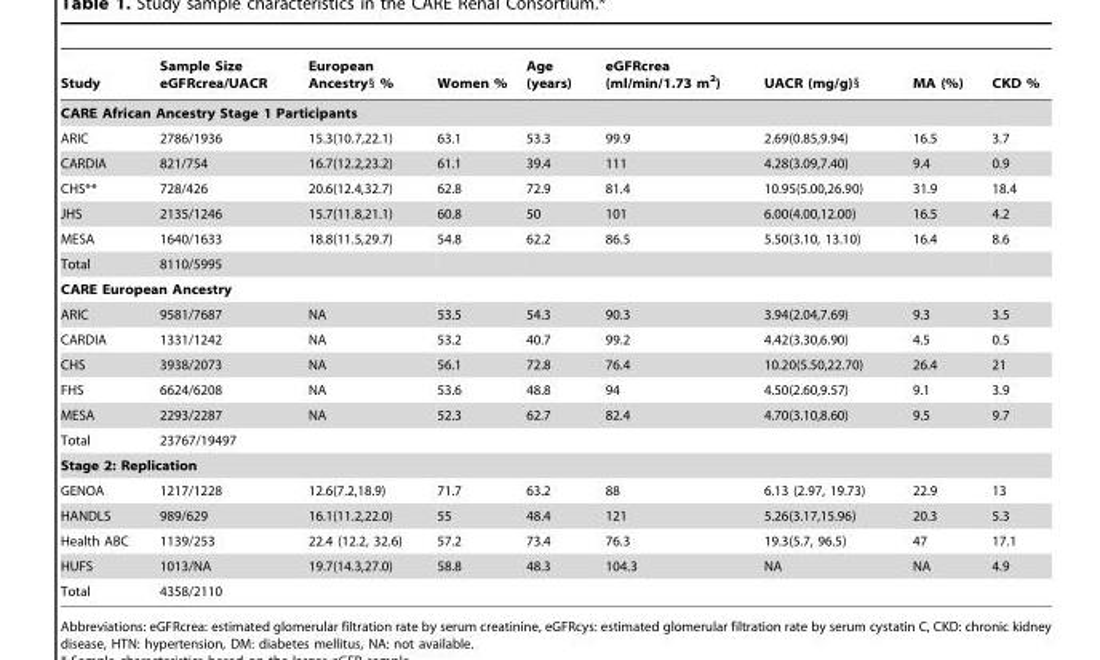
<table><thead><tr><td>Study</td><td>Sample Size eGFRcrea/UACR</td><td>European Ancestry§ %</td><td>Women %</td><td>Age (years)</td><td>eGFRcrea (ml/min/1.73 m<sup>2</sup>)</td><td>UACR (mg/g)§</td><td>MA (%)</td><td>CKD %</td></tr></thead><tbody><tr><td colspan="9">CARE African Ancestry Stage 1 Participants</td></tr><tr><td>ARIC</td><td>2786/1936</td><td>15.3(10.7,22.1)</td><td>63.1</td><td>53.3</td><td>99.9</td><td>2.69(0.85,9.94)</td><td>16.5</td><td>3.7</td></tr><tr><td>CARDIA</td><td>821/754</td><td>16.7(12.2,23.2)</td><td>61.1</td><td>39.4</td><td>111</td><td>4.28(3.09,7.40)</td><td>9.4</td><td>0.9</td></tr><tr><td>CHS**</td><td>728/426</td><td>20.6(12.4,32.7)</td><td>62.8</td><td>72.9</td><td>81.4</td><td>10.95(5.00,26.90)</td><td>31.9</td><td>18.4</td></tr><tr><td>JHS</td><td>2135/1246</td><td>15.7(11.8,21.1)</td><td>60.8</td><td>50</td><td>101</td><td>6.00(4.00,12.00)</td><td>16.5</td><td>4.2</td></tr><tr><td>MESA</td><td>1640/1633</td><td>18.8(11.5,29.7)</td><td>54.8</td><td>62.2</td><td>86.5</td><td>5.50(3.10, 13.10)</td><td>16.4</td><td>8.6</td></tr><tr><td>Total</td><td>8110/5995</td><td></td><td></td><td></td><td></td><td></td><td></td><td></td></tr><tr><td colspan="9">CARE European Ancestry</td></tr><tr><td>ARIC</td><td>9581/7687</td><td>NA</td><td>53.5</td><td>54.3</td><td>90.3</td><td>3.94(2.04,7.69)</td><td>9.3</td><td>3.5</td></tr><tr><td>CARDIA</td><td>1331/1242</td><td>NA</td><td>53.2</td><td>40.7</td><td>99.2</td><td>4.42(3.30,6.90)</td><td>4.5</td><td>0.5</td></tr><tr><td>CHS</td><td>3938/2073</td><td>NA</td><td>56.1</td><td>72.8</td><td>76.4</td><td>10.20(5.50,22.70)</td><td>26.4</td><td>21</td></tr><tr><td>FHS</td><td>6624/6208</td><td>NA</td><td>53.6</td><td>48.8</td><td>94</td><td>4.50(2.60,9.57)</td><td>9.1</td><td>3.9</td></tr><tr><td>MESA</td><td>2293/2287</td><td>NA</td><td>52.3</td><td>62.7</td><td>82.4</td><td>4.70(3.10,8.60)</td><td>9.5</td><td>9.7</td></tr><tr><td>Total</td><td>23767/19497</td><td></td><td></td><td></td><td></td><td></td><td></td><td></td></tr><tr><td colspan="9">Stage 2: Replication</td></tr><tr><td>GENOA</td><td>1217/1228</td><td>12.6(7.2,18.9)</td><td>71.7</td><td>63.2</td><td>88</td><td>6.13 (2.97, 19.73)</td><td>22.9</td><td>13</td></tr><tr><td>HANDLS</td><td>989/629</td><td>16.1(11.2,22.0)</td><td>55</td><td>48.4</td><td>121</td><td>5.26(3.17,15.96)</td><td>20.3</td><td>5.3</td></tr><tr><td>Health ABC</td><td>1139/253</td><td>22.4 (12.2, 32.6)</td><td>57.2</td><td>73.4</td><td>76.3</td><td>19.3(5.7, 96.5)</td><td>47</td><td>17.1</td></tr><tr><td>HUFS</td><td>1013/NA</td><td>19.7(14.3,27.0)</td><td>58.8</td><td>48.3</td><td>104.3</td><td>NA</td><td>NA</td><td>4.9</td></tr><tr><td>Total</td><td>4358/2110</td><td></td><td></td><td></td><td></td><td></td><td></td><td></td></tr></tbody></table>